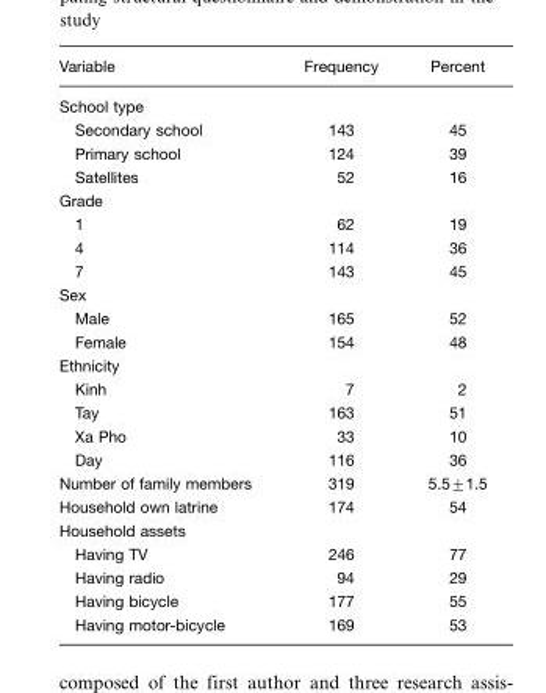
<table><thead><tr><td>Variable</td><td>Frequency</td><td>Percent</td></tr></thead><tbody><tr><td colspan="3">School type</td></tr><tr><td>Secondary school</td><td>143</td><td>45</td></tr><tr><td>Primary school</td><td>124</td><td>39</td></tr><tr><td>Satellites</td><td>52</td><td>16</td></tr><tr><td colspan="3">Grade</td></tr><tr><td>1</td><td>62</td><td>19</td></tr><tr><td>4</td><td>114</td><td>36</td></tr><tr><td>7</td><td>143</td><td>45</td></tr><tr><td colspan="3">Sex</td></tr><tr><td>Male</td><td>165</td><td>52</td></tr><tr><td>Female</td><td>154</td><td>48</td></tr><tr><td colspan="3">Ethnicity</td></tr><tr><td>Kinh</td><td>7</td><td>2</td></tr><tr><td>Tay</td><td>163</td><td>51</td></tr><tr><td>Xa Pho</td><td>33</td><td>10</td></tr><tr><td>Day</td><td>116</td><td>36</td></tr><tr><td>Number of family members</td><td>319</td><td>5.5±1.5</td></tr><tr><td>Household own latrine</td><td>174</td><td>54</td></tr><tr><td colspan="3">Household assets</td></tr><tr><td>Having TV</td><td>246</td><td>77</td></tr><tr><td>Having radio</td><td>94</td><td>29</td></tr><tr><td>Having bicycle</td><td>177</td><td>55</td></tr><tr><td>Having motor-bicycle</td><td>169</td><td>53</td></tr></tbody></table>